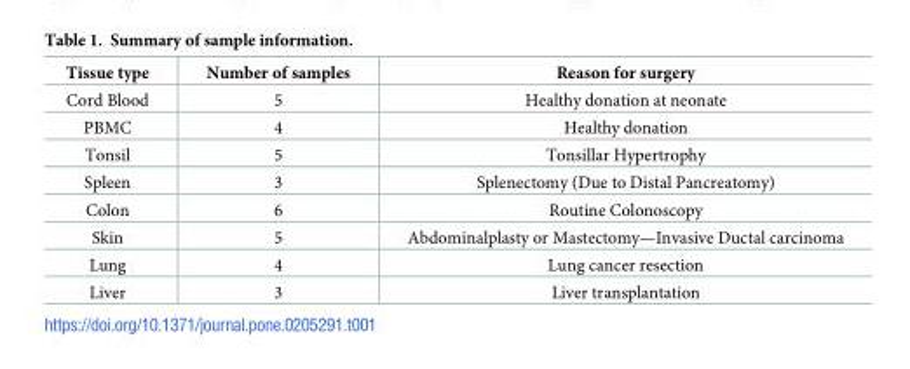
<table><thead><tr><td>Tissue type</td><td>Number of samples</td><td>Reason for surgery</td></tr></thead><tbody><tr><td>Cord Blood</td><td>5</td><td>Healthy donation at neonate</td></tr><tr><td>PBMC</td><td>4</td><td>Healthy donation</td></tr><tr><td>Tonsil</td><td>5</td><td>Tonsillar Hypertrophy</td></tr><tr><td>Spleen</td><td>3</td><td>Splenectomy (Due to Distal Pancreatomy)</td></tr><tr><td>Colon</td><td>6</td><td>Routine Colonoscopy</td></tr><tr><td>Skin</td><td>5</td><td>Abdominalplasty or Mastectomy—Invasive Ductal carcinoma</td></tr><tr><td>Lung</td><td>4</td><td>Lung cancer resection</td></tr><tr><td>Liver</td><td>3</td><td>Liver transplantation</td></tr></tbody></table>